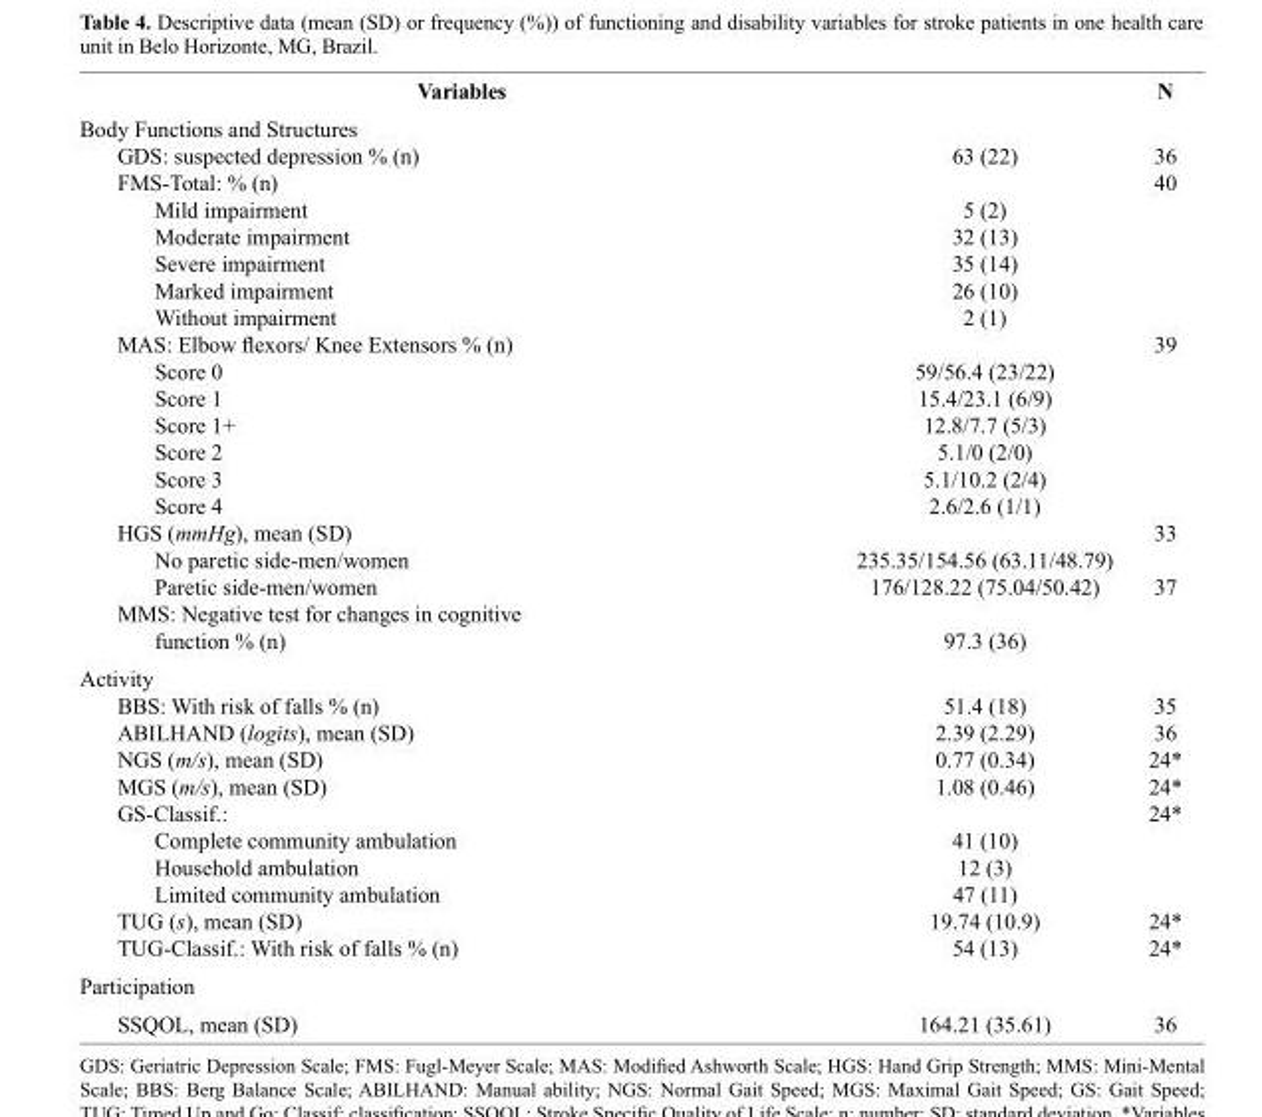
<table><thead><tr><td>Variables</td><td></td><td>N</td></tr></thead><tbody><tr><td>Body Functions and Structures GDS: suspected depression % (n) FMS-Total: % (n) Mild impairment Moderate impairment Severe impairment Marked impairment Without impairment MAS: Elbow flexors/ Knee Extensors % (n) Score 0 Score 1 Score 1+ Score 2 Score 3 Score 4 HGS (mmHg), mean (SD) No paretic side-men/women Paretic side-men/women MMS: Negative test for changes in cognitive function % (n)</td><td>63 (22) 5 (2) 32 (13) 35 (14) 26 (10) 2 (1) 59/56.4 (23/22) 15.4/23.1 (6/9) 12.8/7.7 (5/3) 5.1/0 (2/0) 5.1/10.2 (2/4) 2.6/2.6 (1/1) 235.35/154.56 (63.11/48.79) 176/128.22 (75.04/50.42) 97.3 (36)</td><td>36 40 39 33 37</td></tr><tr><td>Activity BBS: With risk of falls % (n) ABILHAND (logits), mean (SD) NGS (m/s), mean (SD) MGS (m/s), mean (SD) GS-Classif.: Complete community ambulation Household ambulation Limited community ambulation TUG (s), mean (SD) TUG-Classif.: With risk of falls % (n)</td><td>51.4 (18) 2.39 (2.29) 0.77 (0.34) 1.08 (0.46) 41 (10) 12 (3) 47 (11) 19.74 (10.9) 54 (13)</td><td>35 36 24* 24* 24* 24* 24*</td></tr><tr><td colspan="3">Participation</td></tr><tr><td>SSQOL, mean (SD)</td><td>164.21 (35.61)</td><td>36</td></tr></tbody></table>